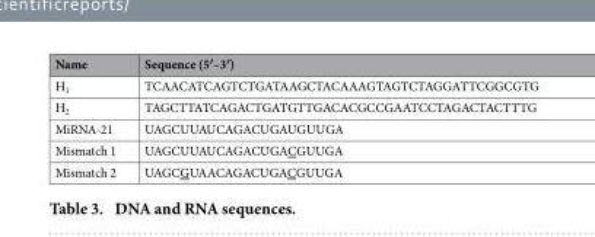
<table><thead><tr><td>Name</td><td>Sequence (5′–3′)</td></tr></thead><tbody><tr><td>H<sub>1</sub></td><td>TCAACATCAGTCTGATAAGCTACAAAGTAGTCTAGGATTCGGCGTG</td></tr><tr><td>H<sub>2</sub></td><td>TAGCTTATCAGACTGATGTTGACACGCCGAATCCTAGACTACTTTG</td></tr><tr><td>MiRNA-21</td><td>UAGCUUAUCAGACUGAUGUUGA</td></tr><tr><td>Mismatch 1</td><td>UAGCUUAUCAGACUGACGUUGA</td></tr><tr><td>Mismatch 2</td><td>UAGCGUAACAGACUGACGUUGA</td></tr></tbody></table>